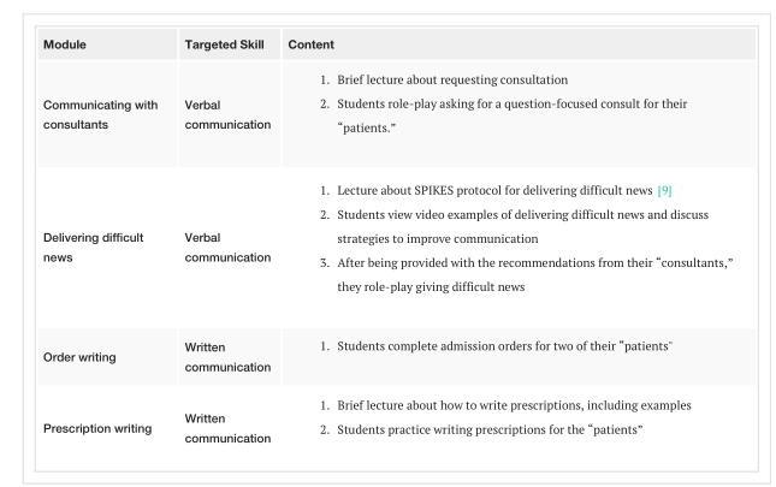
<table><tbody><tr><td>Module</td><td>Targeted Skill</td><td>Content</td></tr><tr><td>Communicating with consultants</td><td>Verbal communication</td><td>1. Brief lecture about requesting consultation 2. Students role-play asking for a question-focused consult for their “patients.”</td></tr><tr><td>Delivering difficult news</td><td>Verbal communication</td><td>1. Lecture about SPIKES protocol for delivering difficult news [9] 2. Students view video examples of delivering difficult news and discuss strategies to improve communication 3. After being provided with the recommendations from their “consultants,” they role-play giving difficult news</td></tr><tr><td>Order writing</td><td>Written communication</td><td>1. Students complete admission orders for two of their “patients&quot;</td></tr><tr><td>Prescription writing</td><td>Written communication</td><td>1. Brief lecture about how to write prescriptions, including examples 2. Students practice writing prescriptions for the “patients”</td></tr></tbody></table>